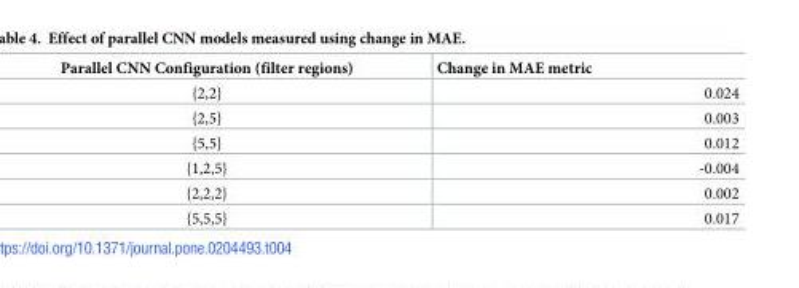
<table><thead><tr><td>Parallel CNN Configuration (filter regions)</td><td>Change in MAE metric</td></tr></thead><tbody><tr><td>{2,2}</td><td>0.024</td></tr><tr><td>{2,5}</td><td>0.003</td></tr><tr><td>{5,5}</td><td>0.012</td></tr><tr><td>{1,2,5}</td><td>-0.004</td></tr><tr><td>{2,2,2}</td><td>0.002</td></tr><tr><td>{5,5,5}</td><td>0.017</td></tr></tbody></table>